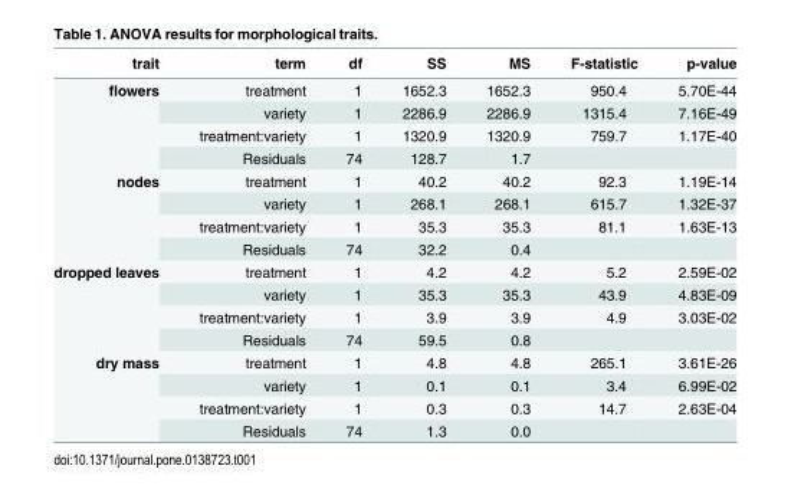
<table><thead><tr><td>trait</td><td>term</td><td>df</td><td>SS</td><td>MS</td><td>F-statistic</td><td>p-value</td></tr></thead><tbody><tr><td rowspan="4">flowers</td><td>treatment</td><td>1</td><td>1652.3</td><td>1652.3</td><td>950.4</td><td>5.70E-44</td></tr><tr><td>variety</td><td>1</td><td>2286.9</td><td>2286.9</td><td>1315.4</td><td>7.16E-49</td></tr><tr><td>treatment:variety</td><td>1</td><td>1320.9</td><td>1320.9</td><td>759.7</td><td>1.17E-40</td></tr><tr><td>Residuals</td><td>74</td><td>128.7</td><td>1.7</td><td></td><td></td></tr><tr><td rowspan="4">nodes</td><td>treatment</td><td>1</td><td>40.2</td><td>40.2</td><td>92.3</td><td>1.19E-14</td></tr><tr><td>variety</td><td>1</td><td>268.1</td><td>268.1</td><td>615.7</td><td>1.32E-37</td></tr><tr><td>treatment:variety</td><td>1</td><td>35.3</td><td>35.3</td><td>81.1</td><td>1.63E-13</td></tr><tr><td>Residuals</td><td>74</td><td>32.2</td><td>0.4</td><td></td><td></td></tr><tr><td rowspan="4">dropped leaves</td><td>treatment</td><td>1</td><td>4.2</td><td>4.2</td><td>5.2</td><td>2.59E-02</td></tr><tr><td>variety</td><td>1</td><td>35.3</td><td>35.3</td><td>43.9</td><td>4.83E-09</td></tr><tr><td>treatment:variety</td><td>1</td><td>3.9</td><td>3.9</td><td>4.9</td><td>3.03E-02</td></tr><tr><td>Residuals</td><td>74</td><td>59.5</td><td>0.8</td><td></td><td></td></tr><tr><td rowspan="4">dry mass</td><td>treatment</td><td>1</td><td>4.8</td><td>4.8</td><td>265.1</td><td>3.61E-26</td></tr><tr><td>variety</td><td>1</td><td>0.1</td><td>0.1</td><td>3.4</td><td>6.99E-02</td></tr><tr><td>treatment:variety</td><td>1</td><td>0.3</td><td>0.3</td><td>14.7</td><td>2.63E-04</td></tr><tr><td>Residuals</td><td>74</td><td>1.3</td><td>0.0</td><td></td><td></td></tr></tbody></table>